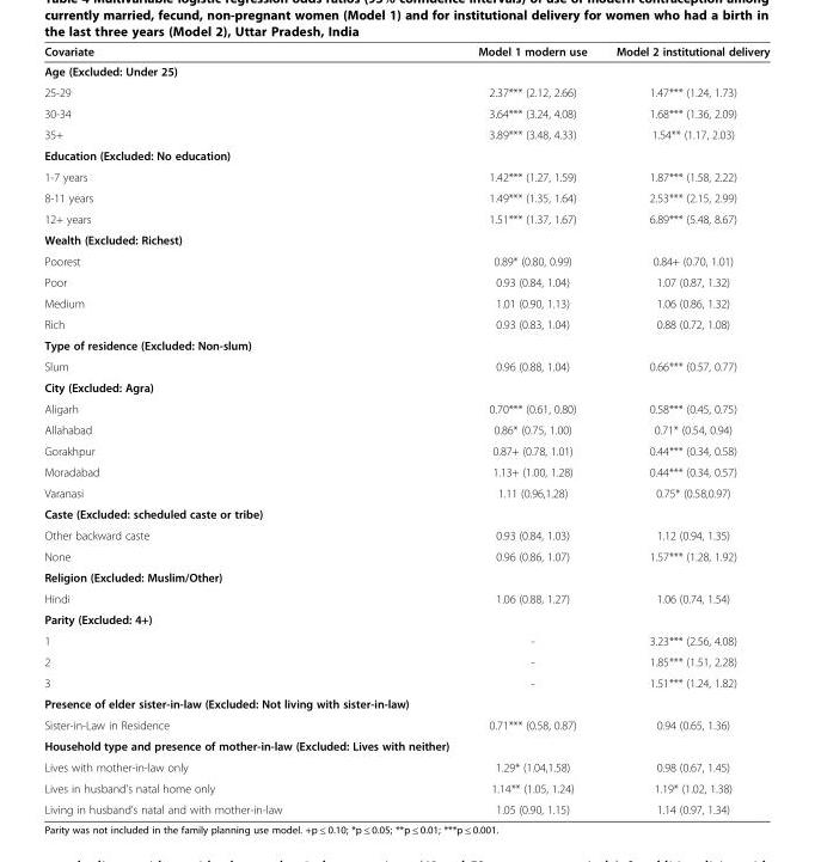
<table><thead><tr><td>Covariate</td><td>Model 1 modern use</td><td>Model 2 institutional delivery</td></tr></thead><tbody><tr><td colspan="3">Age (Excluded: Under 25)</td></tr><tr><td>25-29</td><td>2.37*** (2.12, 2.66)</td><td>1.47*** (1.24, 1.73)</td></tr><tr><td>30-34</td><td>3.64*** (3.24, 4.08)</td><td>1.68*** (1.36, 2.09)</td></tr><tr><td>35+</td><td>3.89*** (3.48, 4.33)</td><td>1.54** (1.17, 2.03)</td></tr><tr><td colspan="3">Education (Excluded: No education)</td></tr><tr><td>1-7 years</td><td>1.42*** (1.27, 1.59)</td><td>1.87*** (1.58, 2.22)</td></tr><tr><td>8-11 years</td><td>1.49*** (1.35, 1.64)</td><td>2.53*** (2.15, 2.99)</td></tr><tr><td>12+ years</td><td>1.51*** (1.37, 1.67)</td><td>6.89*** (5.48, 8.67)</td></tr><tr><td colspan="3">Wealth (Excluded: Richest)</td></tr><tr><td>Poorest</td><td>0.89* (0.80, 0.99)</td><td>0.84+ (0.70, 1.01)</td></tr><tr><td>Poor</td><td>0.93 (0.84, 1.04)</td><td>1.07 (0.87, 1.32)</td></tr><tr><td>Medium</td><td>1.01 (0.90, 1.13)</td><td>1.06 (0.86, 1.32)</td></tr><tr><td>Rich</td><td>0.93 (0.83, 1.04)</td><td>0.88 (0.72, 1.08)</td></tr><tr><td colspan="3">Type of residence (Excluded: Non-slum)</td></tr><tr><td>Slum</td><td>0.96 (0.88, 1.04)</td><td>0.66*** (0.57, 0.77)</td></tr><tr><td colspan="3">City (Excluded: Agra)</td></tr><tr><td>Aligarh</td><td>0.70*** (0.61, 0.80)</td><td>0.58*** (0.45, 0.75)</td></tr><tr><td>Allahabad</td><td>0.86* (0.75, 1.00)</td><td>0.71* (0.54, 0.94)</td></tr><tr><td>Gorakhpur</td><td>0.87+ (0.78, 1.01)</td><td>0.44*** (0.34, 0.58)</td></tr><tr><td>Moradabad</td><td>1.13+ (1.00, 1.28)</td><td>0.44*** (0.34, 0.57)</td></tr><tr><td>Varanasi</td><td>1.11 (0.96,1.28)</td><td>0.75* (0.58,0.97)</td></tr><tr><td colspan="3">Caste (Excluded: scheduled caste or tribe)</td></tr><tr><td>Other backward caste</td><td>0.93 (0.84, 1.03)</td><td>1.12 (0.94, 1.35)</td></tr><tr><td>None</td><td>0.96 (0.86, 1.07)</td><td>1.57*** (1.28, 1.92)</td></tr><tr><td colspan="3">Religion (Excluded: Muslim/Other)</td></tr><tr><td>Hindi</td><td>1.06 (0.88, 1.27)</td><td>1.06 (0.74, 1.54)</td></tr><tr><td colspan="3">Parity (Excluded: 4+)</td></tr><tr><td>1</td><td>-</td><td>3.23*** (2.56, 4.08)</td></tr><tr><td>2</td><td>-</td><td>1.85*** (1.51, 2.28)</td></tr><tr><td>3</td><td>-</td><td>1.51*** (1.24, 1.82)</td></tr><tr><td colspan="3">Presence of elder sister-in-law (Excluded: Not living with sister-in-law)</td></tr><tr><td>Sister-in-Law in Residence</td><td>0.71*** (0.58, 0.87)</td><td>0.94 (0.65, 1.36)</td></tr><tr><td colspan="3">Household type and presence of mother-in-law (Excluded: Lives with neither)</td></tr><tr><td>Lives with mother-in-law only</td><td>1.29* (1.04,1.58)</td><td>0.98 (0.67, 1.45)</td></tr><tr><td>Lives in husband’s natal home only</td><td>1.14** (1.05, 1.24)</td><td>1.19* (1.02, 1.38)</td></tr><tr><td>Living in husband’s natal and with mother-in-law</td><td>1.05 (0.90, 1.15)</td><td>1.14 (0.97, 1.34)</td></tr></tbody></table>